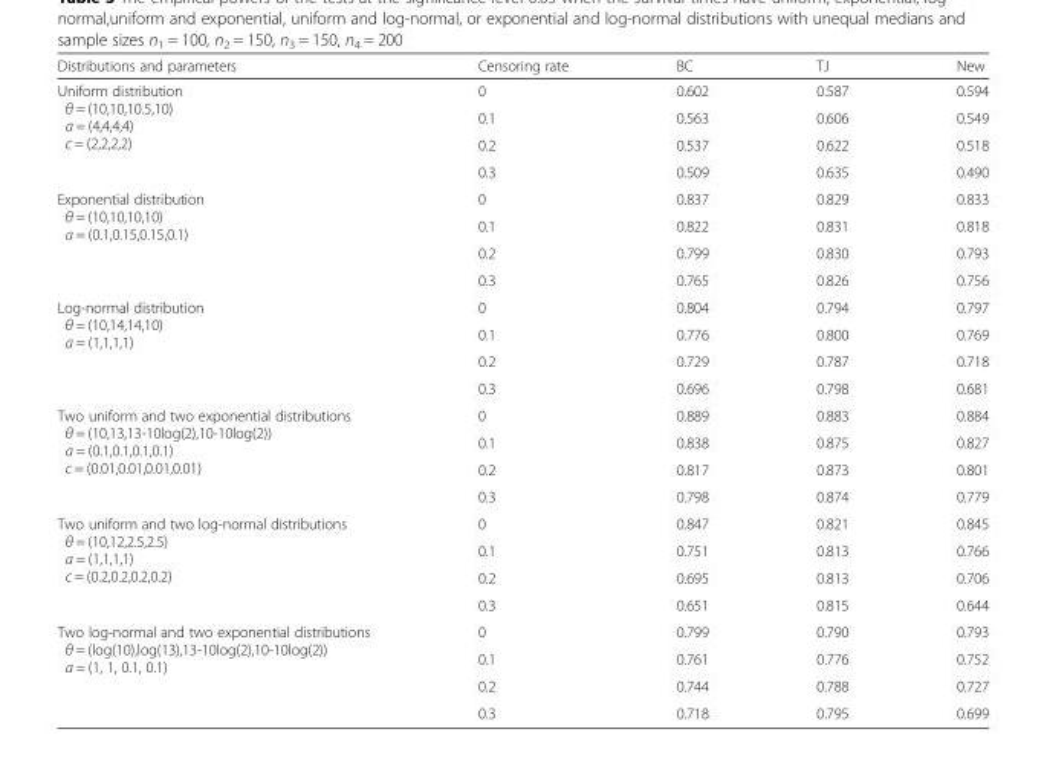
<table><thead><tr><td>Distributions and parameters</td><td>Censoring rate</td><td>BC</td><td>TJ</td><td>New</td></tr></thead><tbody><tr><td rowspan="4">Uniform distribution θ = (10,10,10.5,10) a = (4,4,4,4) c = (2,2,2,2)</td><td>0</td><td>0.602</td><td>0.587</td><td>0.594</td></tr><tr><td>0.1</td><td>0.563</td><td>0.606</td><td>0.549</td></tr><tr><td>0.2</td><td>0.537</td><td>0.622</td><td>0.518</td></tr><tr><td>0.3</td><td>0.509</td><td>0.635</td><td>0.490</td></tr><tr><td rowspan="4">Exponential distribution θ = (10,10,10,10) a = (0.1,0.15,0.15,0.1)</td><td>0</td><td>0.837</td><td>0.829</td><td>0.833</td></tr><tr><td>0.1</td><td>0.822</td><td>0.831</td><td>0.818</td></tr><tr><td>0.2</td><td>0.799</td><td>0.830</td><td>0.793</td></tr><tr><td>0.3</td><td>0.765</td><td>0.826</td><td>0.756</td></tr><tr><td rowspan="4">Log-normal distribution θ = (10,14,14,10) a = (1,1,1,1)</td><td>0</td><td>0.804</td><td>0.794</td><td>0.797</td></tr><tr><td>0.1</td><td>0.776</td><td>0.800</td><td>0.769</td></tr><tr><td>0.2</td><td>0.729</td><td>0.787</td><td>0.718</td></tr><tr><td>0.3</td><td>0.696</td><td>0.798</td><td>0.681</td></tr><tr><td rowspan="4">Two uniform and two exponential distributions θ = (10,13,13-10log(2),10-10log(2)) a = (0.1,0.1,0.1,0.1) c = (0.01,0.01,0.01,0.01)</td><td>0</td><td>0.889</td><td>0.883</td><td>0.884</td></tr><tr><td>0.1</td><td>0.838</td><td>0.875</td><td>0.827</td></tr><tr><td>0.2</td><td>0.817</td><td>0.873</td><td>0.801</td></tr><tr><td>0.3</td><td>0.798</td><td>0.874</td><td>0.779</td></tr><tr><td rowspan="4">Two uniform and two log-normal distributions θ = (10,12,2.5,2.5) a = (1,1,1,1) c = (0.2,0.2,0.2,0.2)</td><td>0</td><td>0.847</td><td>0.821</td><td>0.845</td></tr><tr><td>0.1</td><td>0.751</td><td>0.813</td><td>0.766</td></tr><tr><td>0.2</td><td>0.695</td><td>0.813</td><td>0.706</td></tr><tr><td>0.3</td><td>0.651</td><td>0.815</td><td>0.644</td></tr><tr><td rowspan="4">Two log-normal and two exponential distributions θ = (log(10),log(13),13-10log(2),10-10log(2)) a = (1, 1, 0.1, 0.1)</td><td>0</td><td>0.799</td><td>0.790</td><td>0.793</td></tr><tr><td>0.1</td><td>0.761</td><td>0.776</td><td>0.752</td></tr><tr><td>0.2</td><td>0.744</td><td>0.788</td><td>0.727</td></tr><tr><td>0.3</td><td>0.718</td><td>0.795</td><td>0.699</td></tr></tbody></table>